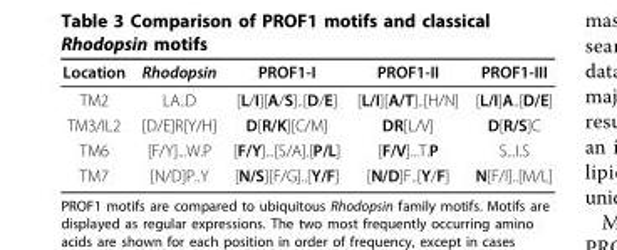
<table><thead><tr><td>Location</td><td>Rhodopsin</td><td>PROF1-I</td><td>PROF1-II</td><td>PROF1-III</td></tr></thead><tbody><tr><td>TM2</td><td>LA..D</td><td>[L/I][A/S]..[D/E]</td><td>[L/I][A/T]..[H/N]</td><td>[L/I]A..[D/E]</td></tr><tr><td>TM3/IL2</td><td>[D/E]R[Y/H]</td><td>D[R/K][C/M]</td><td>DR[L/V]</td><td>D[R/S]C</td></tr><tr><td>TM6</td><td>[F/Y]...W.P</td><td>[F/Y]...[S/A].[P/L]</td><td>[F/V]...T.P</td><td>S...I.S</td></tr><tr><td>TM7</td><td>[N/D]P..Y</td><td>[N/S][F/G]..[Y/F]</td><td>[N/D]F..[Y/F]</td><td>N[F/I]..[M/L]</td></tr></tbody></table>